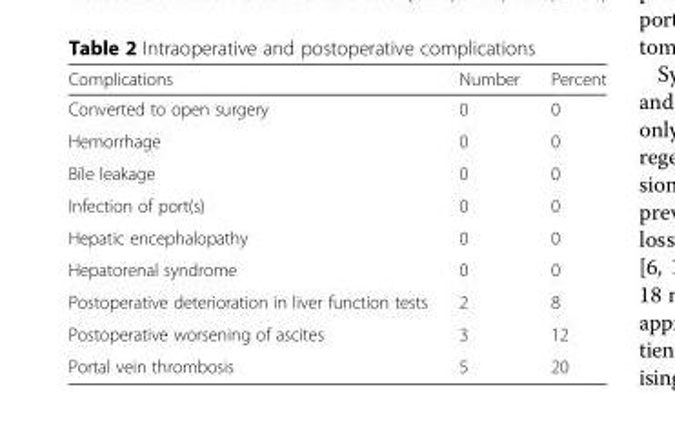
<table><thead><tr><td>Complications</td><td>Number</td><td>Percent</td></tr></thead><tbody><tr><td>Converted to open surgery</td><td>0</td><td>0</td></tr><tr><td>Hemorrhage</td><td>0</td><td>0</td></tr><tr><td>Bile leakage</td><td>0</td><td>0</td></tr><tr><td>Infection of port(s)</td><td>0</td><td>0</td></tr><tr><td>Hepatic encephalopathy</td><td>0</td><td>0</td></tr><tr><td>Hepatorenal syndrome</td><td>0</td><td>0</td></tr><tr><td>Postoperative deterioration in liver function tests</td><td>2</td><td>8</td></tr><tr><td>Postoperative worsening of ascites</td><td>3</td><td>12</td></tr><tr><td>Portal vein thrombosis</td><td>5</td><td>20</td></tr></tbody></table>